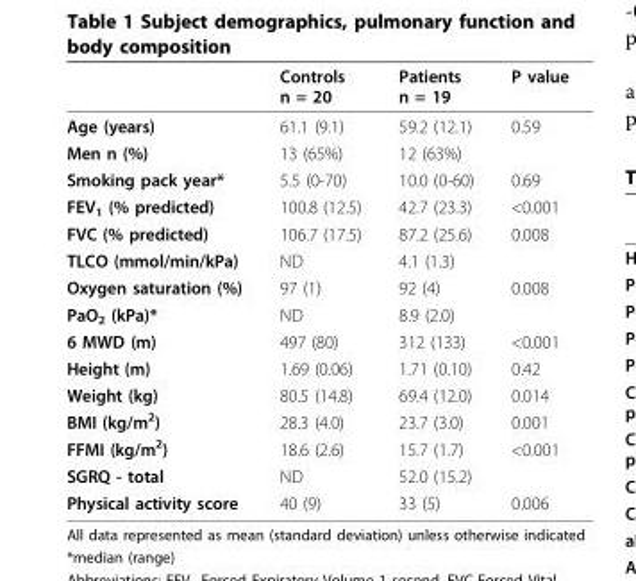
<table><thead><tr><td></td><td>Controls n = 20</td><td>Patients n = 19</td><td>P value</td></tr></thead><tbody><tr><td>Age (years)</td><td>61.1 (9.1)</td><td>59.2 (12.1)</td><td>0.59</td></tr><tr><td>Men n (%)</td><td>13 (65%)</td><td>12 (63%)</td><td></td></tr><tr><td>Smoking pack year*</td><td>5.5 (0-70)</td><td>10.0 (0-60)</td><td>0.69</td></tr><tr><td>FEV<sub>1</sub> (% predicted)</td><td>100.8 (12.5)</td><td>42.7 (23.3)</td><td>&lt;0.001</td></tr><tr><td>FVC (% predicted)</td><td>106.7 (17.5)</td><td>87.2 (25.6)</td><td>0.008</td></tr><tr><td>TLCO (mmol/min/kPa)</td><td>ND</td><td>4.1 (1.3)</td><td></td></tr><tr><td>Oxygen saturation (%)</td><td>97 (1)</td><td>92 (4)</td><td>0.008</td></tr><tr><td>PaO<sub>2</sub> (kPa)*</td><td>ND</td><td>8.9 (2.0)</td><td></td></tr><tr><td>6 MWD (m)</td><td>497 (80)</td><td>312 (133)</td><td>&lt;0.001</td></tr><tr><td>Height (m)</td><td>1.69 (0.06)</td><td>1.71 (0.10)</td><td>0.42</td></tr><tr><td>Weight (kg)</td><td>80.5 (14.8)</td><td>69.4 (12.0)</td><td>0.014</td></tr><tr><td>BMI (kg/m<sup>2</sup>)</td><td>28.3 (4.0)</td><td>23.7 (3.0)</td><td>0.001</td></tr><tr><td>FFMI (kg/m<sup>2</sup>)</td><td>18.6 (2.6)</td><td>15.7 (1.7)</td><td>&lt;0.001</td></tr><tr><td>SGRQ - total</td><td>ND</td><td>52.0 (15.2)</td><td></td></tr><tr><td>Physical activity score</td><td>40 (9)</td><td>33 (5)</td><td>0.006</td></tr></tbody></table>